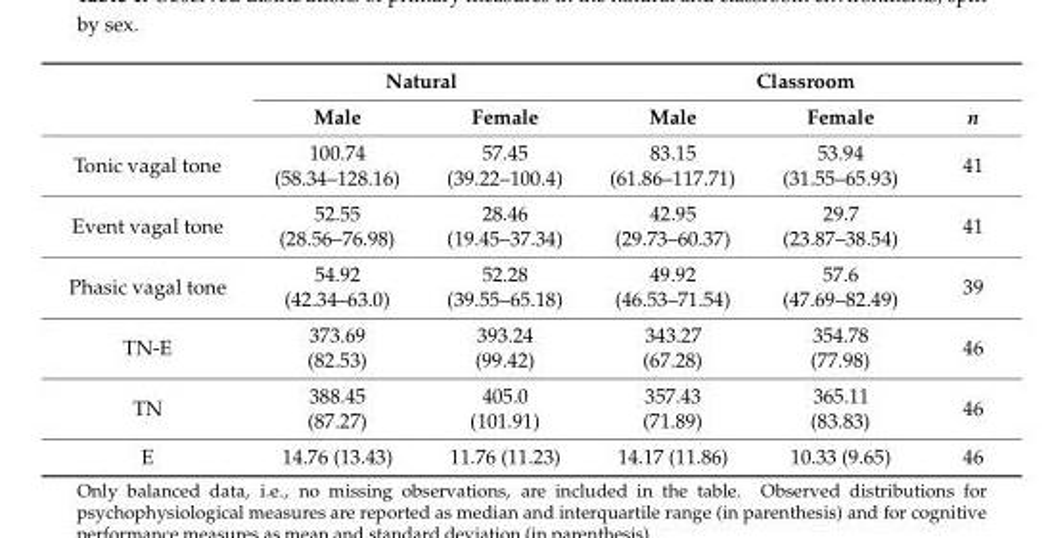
<table><thead><tr><td rowspan="2"></td><td colspan="2">Natural</td><td colspan="3">Classroom</td></tr><tr><td>Male</td><td>Female</td><td>Male</td><td>Female</td><td>n</td></tr></thead><tbody><tr><td>Tonic vagal tone</td><td>100.74 (58.34–128.16)</td><td>57.45 (39.22–100.4)</td><td>83.15 (61.86–117.71)</td><td>53.94 (31.55–65.93)</td><td>41</td></tr><tr><td>Event vagal tone</td><td>52.55 (28.56–76.98)</td><td>28.46 (19.45–37.34)</td><td>42.95 (29.73–60.37)</td><td>29.7 (23.87–38.54)</td><td>41</td></tr><tr><td>Phasic vagal tone</td><td>54.92 (42.34–63.0)</td><td>52.28 (39.55–65.18)</td><td>49.92 (46.53–71.54)</td><td>57.6 (47.69–82.49)</td><td>39</td></tr><tr><td>TN-E</td><td>373.69 (82.53)</td><td>393.24 (99.42)</td><td>343.27 (67.28)</td><td>354.78 (77.98)</td><td>46</td></tr><tr><td>TN</td><td>388.45 (87.27)</td><td>405.0 (101.91)</td><td>357.43 (71.89)</td><td>365.11 (83.83)</td><td>46</td></tr><tr><td>E</td><td>14.76 (13.43)</td><td>11.76 (11.23)</td><td>14.17 (11.86)</td><td>10.33 (9.65)</td><td>46</td></tr></tbody></table>